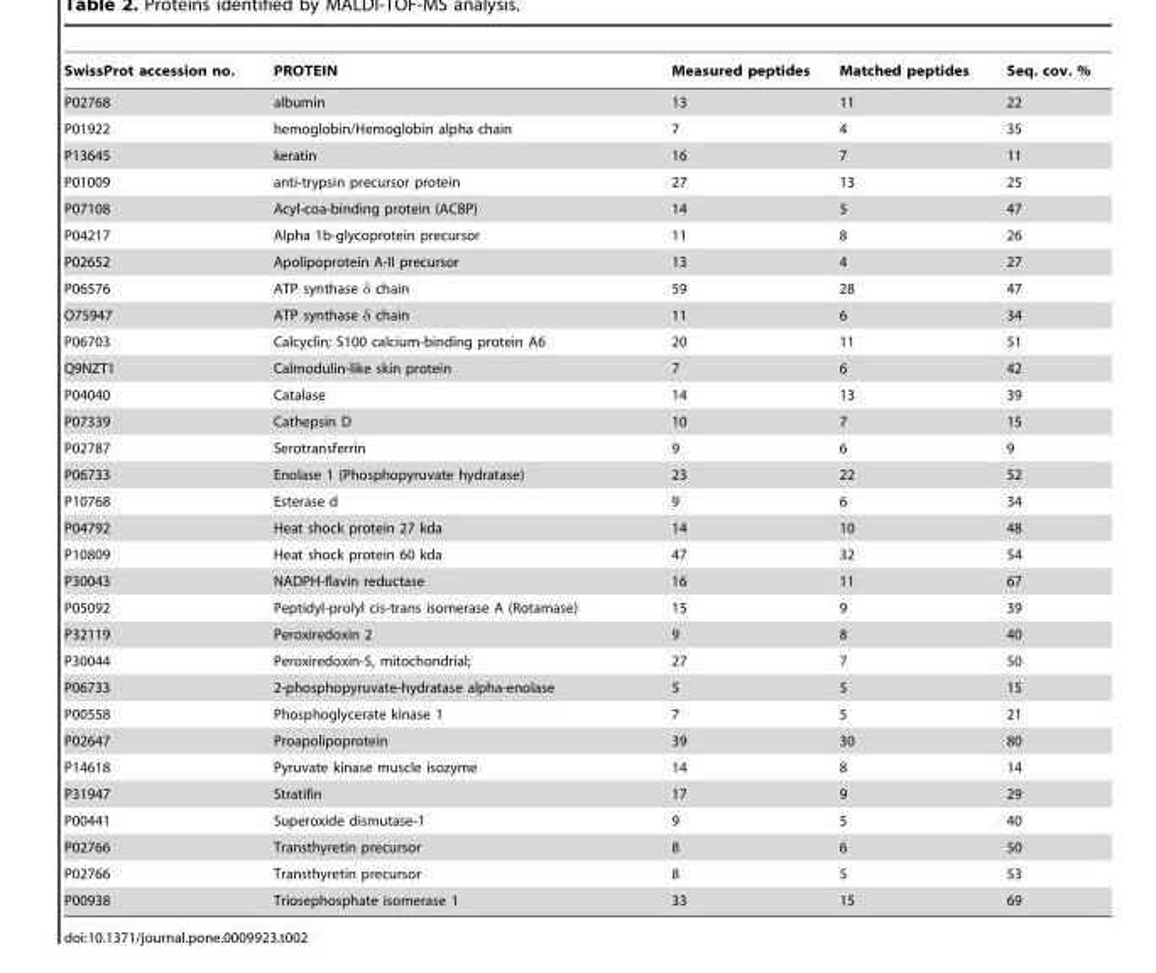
<table><thead><tr><td>SwissProt accession no.</td><td>PROTEIN</td><td>Measured peptides</td><td>Matched peptides</td><td>Seq. cov. %</td></tr></thead><tbody><tr><td>P02768</td><td>albumin</td><td>13</td><td>11</td><td>22</td></tr><tr><td>P01922</td><td>hemoglobin/Hemoglobin alpha chain</td><td>7</td><td>4</td><td>35</td></tr><tr><td>P13645</td><td>keratin</td><td>16</td><td>7</td><td>11</td></tr><tr><td>P01009</td><td>anti-trypsin precursor protein</td><td>27</td><td>13</td><td>25</td></tr><tr><td>P07108</td><td>Acyl-coa-binding protein (ACBP)</td><td>14</td><td>5</td><td>47</td></tr><tr><td>P04217</td><td>Alpha 1b-glycoprotein precursor</td><td>11</td><td>8</td><td>26</td></tr><tr><td>P02652</td><td>Apolipoprotein A-II precursor</td><td>13</td><td>4</td><td>27</td></tr><tr><td>P06576</td><td>ATP synthase δ chain</td><td>59</td><td>28</td><td>47</td></tr><tr><td>O75947</td><td>ATP synthase δ chain</td><td>11</td><td>6</td><td>34</td></tr><tr><td>P06703</td><td>Calcyclin; S100 calcium-binding protein A6</td><td>20</td><td>11</td><td>51</td></tr><tr><td>Q9NZT1</td><td>Calmodulin-like skin protein</td><td>7</td><td>6</td><td>42</td></tr><tr><td>P04040</td><td>Catalase</td><td>14</td><td>13</td><td>39</td></tr><tr><td>P07339</td><td>Cathepsin D</td><td>10</td><td>7</td><td>15</td></tr><tr><td>P02787</td><td>Serotransferrin</td><td>9</td><td>6</td><td>9</td></tr><tr><td>P06733</td><td>Enolase 1 (Phosphopyruvate hydratase)</td><td>23</td><td>22</td><td>52</td></tr><tr><td>P10768</td><td>Esterase d</td><td>9</td><td>6</td><td>34</td></tr><tr><td>P04792</td><td>Heat shock protein 27 kda</td><td>14</td><td>10</td><td>48</td></tr><tr><td>P10809</td><td>Heat shock protein 60 kda</td><td>47</td><td>32</td><td>54</td></tr><tr><td>P30043</td><td>NADPH-flavin reductase</td><td>16</td><td>11</td><td>67</td></tr><tr><td>P05092</td><td>Peptidyl-prolyl cis-trans isomerase A (Rotamase)</td><td>15</td><td>9</td><td>39</td></tr><tr><td>P32119</td><td>Peroxiredoxin 2</td><td>9</td><td>8</td><td>40</td></tr><tr><td>P30044</td><td>Peroxiredoxin-5, mitochondrial;</td><td>27</td><td>7</td><td>50</td></tr><tr><td>P06733</td><td>2-phosphopyruvate-hydratase alpha-enolase</td><td>5</td><td>5</td><td>15</td></tr><tr><td>P00558</td><td>Phosphoglycerate kinase 1</td><td>7</td><td>5</td><td>21</td></tr><tr><td>P02647</td><td>Proapolipoprotein</td><td>39</td><td>30</td><td>80</td></tr><tr><td>P14618</td><td>Pyruvate kinase muscle isozyme</td><td>14</td><td>8</td><td>14</td></tr><tr><td>P31947</td><td>Stratifin</td><td>17</td><td>9</td><td>29</td></tr><tr><td>P00441</td><td>Superoxide dismutase-1</td><td>9</td><td>5</td><td>40</td></tr><tr><td>P02766</td><td>Transthyretin precursor</td><td>8</td><td>6</td><td>50</td></tr><tr><td>P02766</td><td>Transthyretin precursor</td><td>8</td><td>5</td><td>53</td></tr><tr><td>P00938</td><td>Triosephosphate isomerase 1</td><td>33</td><td>15</td><td>69</td></tr></tbody></table>